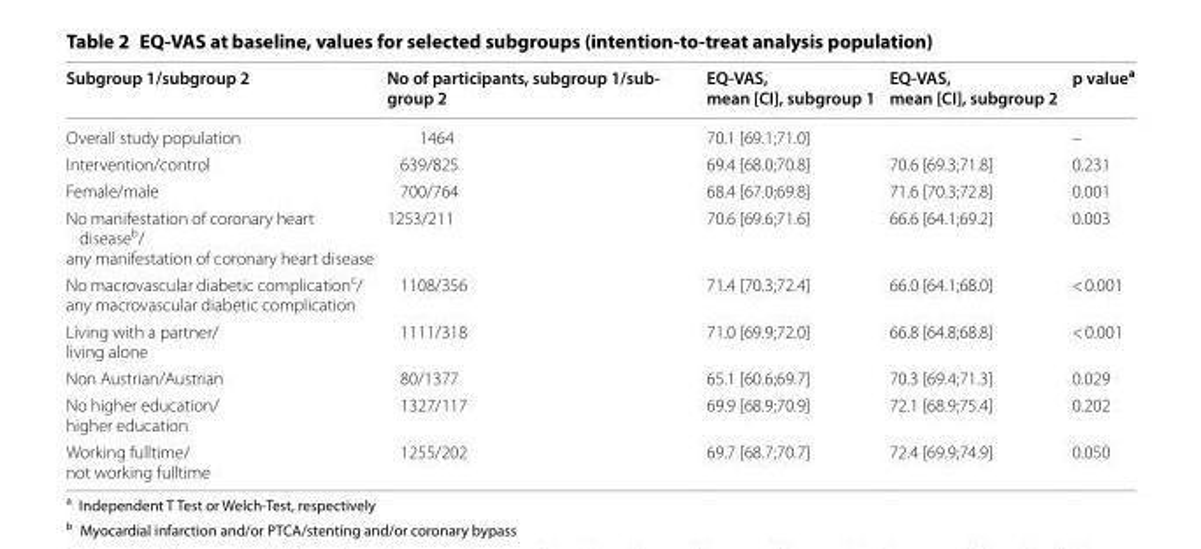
<table><thead><tr><td>Subgroup 1/subgroup 2</td><td>No of participants, subgroup 1/sub- group 2</td><td>EQ-VAS, mean [CI], subgroup 1</td><td>EQ-VAS, mean [CI], subgroup 2</td><td>p value<sup>a</sup></td></tr></thead><tbody><tr><td>Overall study population</td><td>1464</td><td colspan="2">70.1 [69.1;71.0]</td><td>–</td></tr><tr><td>Intervention/control</td><td>639/825</td><td>69.4 [68.0;70.8]</td><td>70.6 [69.3;71.8]</td><td>0.231</td></tr><tr><td>Female/male</td><td>700/764</td><td>68.4 [67.0;69.8]</td><td>71.6 [70.3;72.8]</td><td>0.001</td></tr><tr><td>No manifestation of coronary heart disease<sup>b</sup>/ any manifestation of coronary heart disease</td><td>1253/211</td><td>70.6 [69.6;71.6]</td><td>66.6 [64.1;69.2]</td><td>0.003</td></tr><tr><td>No macrovascular diabetic complication<sup>c</sup>/ any macrovascular diabetic complication</td><td>1108/356</td><td>71.4 [70.3;72.4]</td><td>66.0 [64.1;68.0]</td><td>&lt; 0.001</td></tr><tr><td>Living with a partner/ living alone</td><td>1111/318</td><td>71.0 [69.9;72.0]</td><td>66.8 [64.8;68.8]</td><td>&lt; 0.001</td></tr><tr><td>Non Austrian/Austrian</td><td>80/1377</td><td>65.1 [60.6;69.7]</td><td>70.3 [69.4;71.3]</td><td>0.029</td></tr><tr><td>No higher education/ higher education</td><td>1327/117</td><td>69.9 [68.9;70.9]</td><td>72.1 [68.9;75.4]</td><td>0.202</td></tr><tr><td>Working fulltime/ not working fulltime</td><td>1255/202</td><td>69.7 [68.7;70.7]</td><td>72.4 [69.9;74.9]</td><td>0.050</td></tr></tbody></table>